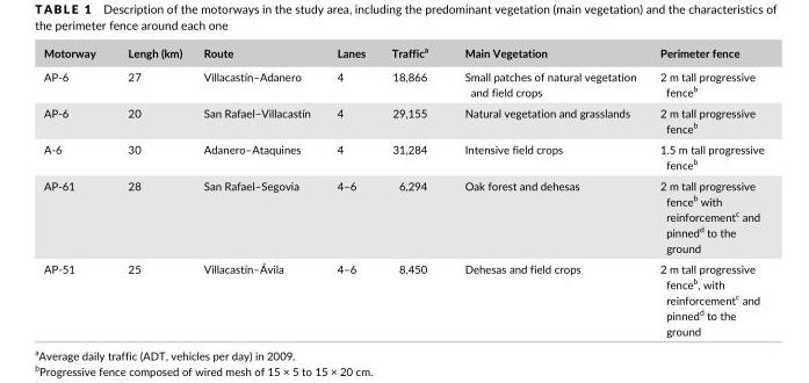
<table><thead><tr><td>Motorway</td><td>Lengh (km)</td><td>Route</td><td>Lanes</td><td>Traffic<sup>a</sup></td><td>Main Vegetation</td><td>Perimeter fence</td></tr></thead><tbody><tr><td>AP- 6</td><td>27</td><td>Villacastín–Adanero</td><td>4</td><td>18,866</td><td>Small patches of natural vegetation and field crops</td><td>2 m tall progressive fence<sup>b</sup></td></tr><tr><td>AP- 6</td><td>20</td><td>San Rafael–Villacastín</td><td>4</td><td>29,155</td><td>Natural vegetation and grasslands</td><td>2 m tall progressive fence<sup>b</sup></td></tr><tr><td>A- 6</td><td>30</td><td>Adanero–Ataquines</td><td>4</td><td>31,284</td><td>Intensive field crops</td><td>1.5 m tall progressive fence<sup>b</sup></td></tr><tr><td>AP- 61</td><td>28</td><td>San Rafael–Segovia</td><td>4–6</td><td>6,294</td><td>Oak forest and dehesas</td><td>2 m tall progressive fence<sup>b</sup> with reinforcement<sup>c</sup> and pinned<sup>d</sup> to the ground</td></tr><tr><td>AP- 51</td><td>25</td><td>Villacastín–Ávila</td><td>4–6</td><td>8,450</td><td>Dehesas and field crops</td><td>2 m tall progressive fence<sup>b</sup>, with reinforcement<sup>c</sup> and pinned<sup>d</sup> to the ground</td></tr></tbody></table>